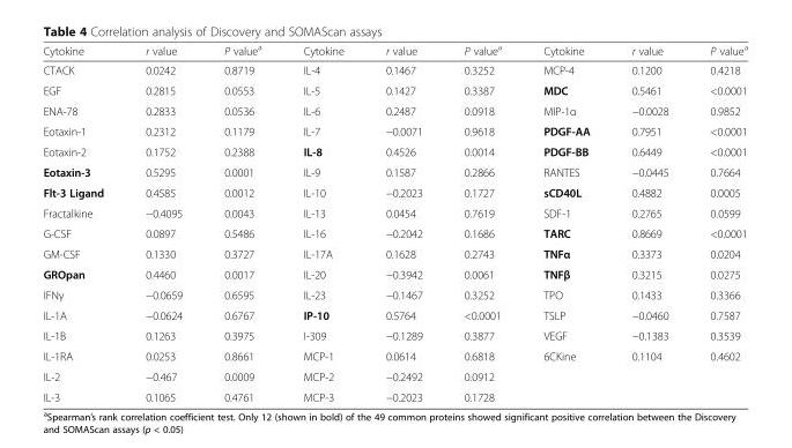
<table><thead><tr><td>Cytokine</td><td>r value</td><td>P value<sup>a</sup></td><td>Cytokine</td><td>r value</td><td>P value<sup>a</sup></td><td>Cytokine</td><td>r value</td><td>P value<sup>a</sup></td></tr></thead><tbody><tr><td>CTACK</td><td>0.0242</td><td>0.8719</td><td>IL-4</td><td>0.1467</td><td>0.3252</td><td>MCP-4</td><td>0.1200</td><td>0.4218</td></tr><tr><td>EGF</td><td>0.2815</td><td>0.0553</td><td>IL-5</td><td>0.1427</td><td>0.3387</td><td>MDC</td><td>0.5461</td><td>&lt;0.0001</td></tr><tr><td>ENA-78</td><td>0.2833</td><td>0.0536</td><td>IL-6</td><td>0.2487</td><td>0.0918</td><td>MIP-1α</td><td>−0.0028</td><td>0.9852</td></tr><tr><td>Eotaxin-1</td><td>0.2312</td><td>0.1179</td><td>IL-7</td><td>−0.0071</td><td>0.9618</td><td>PDGF-AA</td><td>0.7951</td><td>&lt;0.0001</td></tr><tr><td>Eotaxin-2</td><td>0.1752</td><td>0.2388</td><td>IL-8</td><td>0.4526</td><td>0.0014</td><td>PDGF-BB</td><td>0.6449</td><td>&lt;0.0001</td></tr><tr><td>Eotaxin-3</td><td>0.5295</td><td>0.0001</td><td>IL-9</td><td>0.1587</td><td>0.2866</td><td>RANTES</td><td>−0.0445</td><td>0.7664</td></tr><tr><td>Flt-3 Ligand</td><td>0.4585</td><td>0.0012</td><td>IL-10</td><td>−0.2023</td><td>0.1727</td><td>sCD40L</td><td>0.4882</td><td>0.0005</td></tr><tr><td>Fractalkine</td><td>−0.4095</td><td>0.0043</td><td>IL-13</td><td>0.0454</td><td>0.7619</td><td>SDF-1</td><td>0.2765</td><td>0.0599</td></tr><tr><td>G-CSF</td><td>0.0897</td><td>0.5486</td><td>IL-16</td><td>−0.2042</td><td>0.1686</td><td>TARC</td><td>0.8669</td><td>&lt;0.0001</td></tr><tr><td>GM-CSF</td><td>0.1330</td><td>0.3727</td><td>IL-17A</td><td>0.1628</td><td>0.2743</td><td>TNFα</td><td>0.3373</td><td>0.0204</td></tr><tr><td>GROpan</td><td>0.4460</td><td>0.0017</td><td>IL-20</td><td>−0.3942</td><td>0.0061</td><td>TNFβ</td><td>0.3215</td><td>0.0275</td></tr><tr><td>IFNγ</td><td>−0.0659</td><td>0.6595</td><td>IL-23</td><td>−0.1467</td><td>0.3252</td><td>TPO</td><td>0.1433</td><td>0.3366</td></tr><tr><td>IL-1A</td><td>−0.0624</td><td>0.6767</td><td>IP-10</td><td>0.5764</td><td>&lt;0.0001</td><td>TSLP</td><td>−0.0460</td><td>0.7587</td></tr><tr><td>IL-1B</td><td>0.1263</td><td>0.3975</td><td>I-309</td><td>−0.1289</td><td>0.3877</td><td>VEGF</td><td>−0.1383</td><td>0.3539</td></tr><tr><td>IL-1RA</td><td>0.0253</td><td>0.8661</td><td>MCP-1</td><td>0.0614</td><td>0.6818</td><td>6CKine</td><td>0.1104</td><td>0.4602</td></tr><tr><td>IL-2</td><td>−0.467</td><td>0.0009</td><td>MCP-2</td><td>−0.2492</td><td>0.0912</td><td></td><td></td><td></td></tr><tr><td>IL-3</td><td>0.1065</td><td>0.4761</td><td>MCP-3</td><td>−0.2023</td><td>0.1728</td><td></td><td></td><td></td></tr></tbody></table>